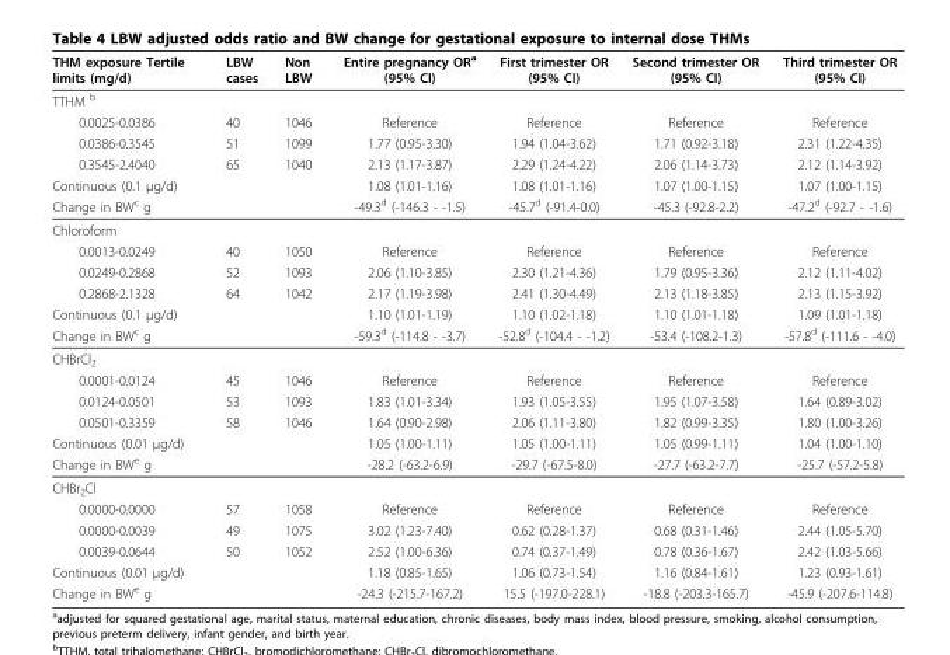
<table><thead><tr><td>THM exposure Tertile limits (mg/d)</td><td>LBW cases</td><td>Non LBW</td><td>Entire pregnancy OR<sup>a</sup> (95% CI)</td><td>First trimester OR (95% CI)</td><td>Second trimester OR (95% CI)</td><td>Third trimester OR (95% CI)</td></tr></thead><tbody><tr><td colspan="7">TTHM <sup>b</sup></td></tr><tr><td>0.0025-0.0386</td><td>40</td><td>1046</td><td>Reference</td><td>Reference</td><td>Reference</td><td>Reference</td></tr><tr><td>0.0386-0.3545</td><td>51</td><td>1099</td><td>1.77 (0.95-3.30)</td><td>1.94 (1.04-3.62)</td><td>1.71 (0.92-3.18)</td><td>2.31 (1.22-4.35)</td></tr><tr><td>0.3545-2.4040</td><td>65</td><td>1040</td><td>2.13 (1.17-3.87)</td><td>2.29 (1.24-4.22)</td><td>2.06 (1.14-3.73)</td><td>2.12 (1.14-3.92)</td></tr><tr><td>Continuous (0.1 μg/d)</td><td></td><td></td><td>1.08 (1.01-1.16)</td><td>1.08 (1.01-1.16)</td><td>1.07 (1.00-1.15)</td><td>1.07 (1.00-1.15)</td></tr><tr><td>Change in BW<sup>c</sup> g</td><td></td><td></td><td>-49.3<sup>d</sup> (-146.3 - -1.5)</td><td>-45.7<sup>d</sup> (-91.4-0.0)</td><td>-45.3 (-92.8-2.2)</td><td>-47.2<sup>d</sup> (-92.7 - -1.6)</td></tr><tr><td colspan="7">Chloroform</td></tr><tr><td>0.0013-0.0249</td><td>40</td><td>1050</td><td>Reference</td><td>Reference</td><td>Reference</td><td>Reference</td></tr><tr><td>0.0249-0.2868</td><td>52</td><td>1093</td><td>2.06 (1.10-3.85)</td><td>2.30 (1.21-4.36)</td><td>1.79 (0.95-3.36)</td><td>2.12 (1.11-4.02)</td></tr><tr><td>0.2868-2.1328</td><td>64</td><td>1042</td><td>2.17 (1.19-3.98)</td><td>2.41 (1.30-4.49)</td><td>2.13 (1.18-3.85)</td><td>2.13 (1.15-3.92)</td></tr><tr><td>Continuous (0.1 μg/d)</td><td></td><td></td><td>1.10 (1.01-1.19)</td><td>1.10 (1.02-1.18)</td><td>1.10 (1.01-1.18)</td><td>1.09 (1.01-1.18)</td></tr><tr><td>Change in BW<sup>c</sup> g</td><td></td><td></td><td>-59.3<sup>d</sup> (-114.8 - -3.7)</td><td>-52.8<sup>d</sup> (-104.4 - -1.2)</td><td>-53.4 (-108.2-1.3)</td><td>-57.8<sup>d</sup> (-111.6 - -4.0)</td></tr><tr><td colspan="7">CHBrCl<sub>2</sub></td></tr><tr><td>0.0001-0.0124</td><td>45</td><td>1046</td><td>Reference</td><td>Reference</td><td>Reference</td><td>Reference</td></tr><tr><td>0.0124-0.0501</td><td>53</td><td>1093</td><td>1.83 (1.01-3.34)</td><td>1.93 (1.05-3.55)</td><td>1.95 (1.07-3.58)</td><td>1.64 (0.89-3.02)</td></tr><tr><td>0.0501-0.3359</td><td>58</td><td>1046</td><td>1.64 (0.90-2.98)</td><td>2.06 (1.11-3.80)</td><td>1.82 (0.99-3.35)</td><td>1.80 (1.00-3.26)</td></tr><tr><td>Continuous (0.01 μg/d)</td><td></td><td></td><td>1.05 (1.00-1.11)</td><td>1.05 (1.00-1.11)</td><td>1.05 (0.99-1.11)</td><td>1.04 (1.00-1.10)</td></tr><tr><td>Change in BW<sup>e</sup> g</td><td></td><td></td><td>-28.2 (-63.2-6.9)</td><td>-29.7 (-67.5-8.0)</td><td>-27.7 (-63.2-7.7)</td><td>-25.7 (-57.2-5.8)</td></tr><tr><td colspan="7">CHBr<sub>2</sub>Cl</td></tr><tr><td>0.0000-0.0000</td><td>57</td><td>1058</td><td>Reference</td><td>Reference</td><td>Reference</td><td>Reference</td></tr><tr><td>0.0000-0.0039</td><td>49</td><td>1075</td><td>3.02 (1.23-7.40)</td><td>0.62 (0.28-1.37)</td><td>0.68 (0.31-1.46)</td><td>2.44 (1.05-5.70)</td></tr><tr><td>0.0039-0.0644</td><td>50</td><td>1052</td><td>2.52 (1.00-6.36)</td><td>0.74 (0.37-1.49)</td><td>0.78 (0.36-1.67)</td><td>2.42 (1.03-5.66)</td></tr><tr><td>Continuous (0.01 μg/d)</td><td></td><td></td><td>1.18 (0.85-1.65)</td><td>1.06 (0.73-1.54)</td><td>1.16 (0.84-1.61)</td><td>1.23 (0.93-1.61)</td></tr><tr><td>Change in BW<sup>e</sup> g</td><td></td><td></td><td>-24.3 (-215.7-167.2)</td><td>15.5 (-197.0-228.1)</td><td>-18.8 (-203.3-165.7)</td><td>-45.9 (-207.6-114.8)</td></tr></tbody></table>